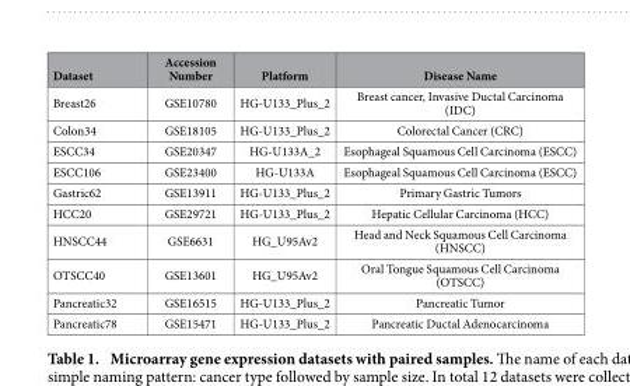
<table><thead><tr><td>Dataset</td><td>Accession Number</td><td>Platform</td><td>Disease Name</td></tr></thead><tbody><tr><td>Breast26</td><td>GSE10780</td><td>HG-U133_Plus_2</td><td>Breast cancer, Invasive Ductal Carcinoma (IDC)</td></tr><tr><td>Colon34</td><td>GSE18105</td><td>HG-U133_Plus_2</td><td>Colorectal Cancer (CRC)</td></tr><tr><td>ESCC34</td><td>GSE20347</td><td>HG-U133A_2</td><td>Esophageal Squamous Cell Carcinoma (ESCC)</td></tr><tr><td>ESCC106</td><td>GSE23400</td><td>HG-U133A</td><td>Esophageal Squamous Cell Carcinoma (ESCC)</td></tr><tr><td>Gastric62</td><td>GSE13911</td><td>HG-U133_Plus_2</td><td>Primary Gastric Tumors</td></tr><tr><td>HCC20</td><td>GSE29721</td><td>HG-U133_Plus_2</td><td>Hepatic Cellular Carcinoma (HCC)</td></tr><tr><td>HNSCC44</td><td>GSE6631</td><td>HG_U95Av2</td><td>Head and Neck Squamous Cell Carcinoma (HNSCC)</td></tr><tr><td>OTSCC40</td><td>GSE13601</td><td>HG_U95Av2</td><td>Oral Tongue Squamous Cell Carcinoma (OTSCC)</td></tr><tr><td>Pancreatic32</td><td>GSE16515</td><td>HG-U133_Plus_2</td><td>Pancreatic Tumor</td></tr><tr><td>Pancreatic78</td><td>GSE15471</td><td>HG-U133_Plus_2</td><td>Pancreatic Ductal Adenocarcinoma</td></tr></tbody></table>